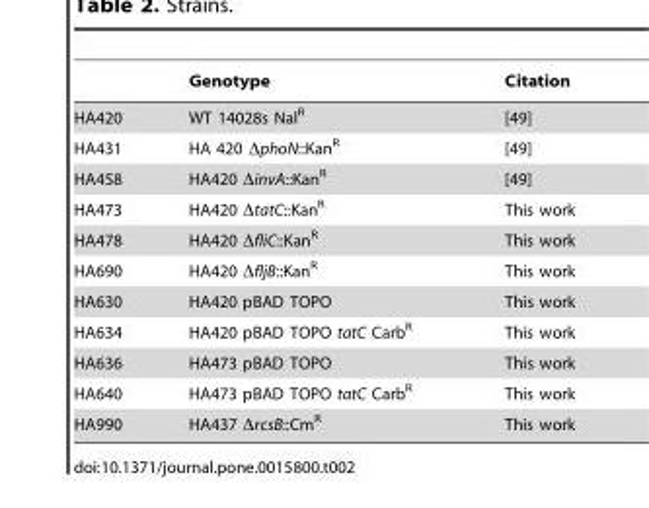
<table><thead><tr><td></td><td>Genotype</td><td>Citation</td></tr></thead><tbody><tr><td>HA420</td><td>WT 14028s Nal<sup>R</sup></td><td>[49]</td></tr><tr><td>HA431</td><td>HA 420 ΔphoN::Kan<sup>R</sup></td><td>[49]</td></tr><tr><td>HA458</td><td>HA420 ΔinvA::Kan<sup>R</sup></td><td>[49]</td></tr><tr><td>HA473</td><td>HA420 ΔtatC::Kan<sup>R</sup></td><td>This work</td></tr><tr><td>HA478</td><td>HA420 ΔfliC::Kan<sup>R</sup></td><td>This work</td></tr><tr><td>HA690</td><td>HA420 ΔfljB::Kan<sup>R</sup></td><td>This work</td></tr><tr><td>HA630</td><td>HA420 pBAD TOPO</td><td>This work</td></tr><tr><td>HA634</td><td>HA420 pBAD TOPO tatC Carb<sup>R</sup></td><td>This work</td></tr><tr><td>HA636</td><td>HA473 pBAD TOPO</td><td>This work</td></tr><tr><td>HA640</td><td>HA473 pBAD TOPO tatC Carb<sup>R</sup></td><td>This work</td></tr><tr><td>HA990</td><td>HA437 ΔrcsB::Cm<sup>R</sup></td><td>This work</td></tr></tbody></table>